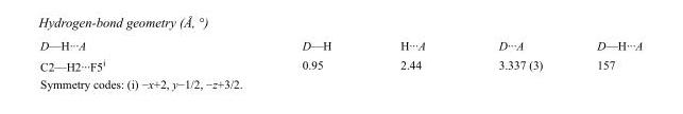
<table><tbody><tr><td>D—H···A</td><td>D—H</td><td>H···A</td><td>D···A</td><td>D—H···A</td></tr><tr><td>C2—H2···F5<sup>i</sup></td><td>0.95</td><td>2.44</td><td>3.337 (3)</td><td>157</td></tr></tbody></table>